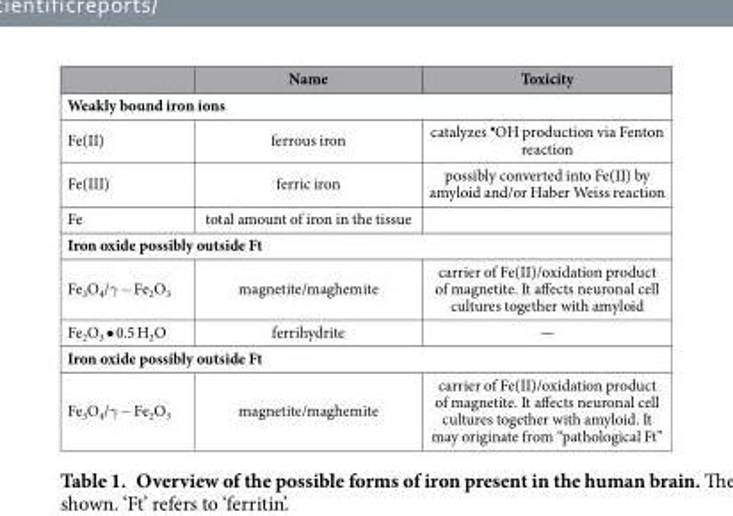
<table><thead><tr><td></td><td>Name</td><td>Toxicity</td></tr></thead><tbody><tr><td colspan="3">Weakly bound iron ions</td></tr><tr><td>Fe(II)</td><td>ferrous iron</td><td>catalyzes <sup>•</sup>OH production via Fenton reaction</td></tr><tr><td>Fe(III)</td><td>ferric iron</td><td>possibly converted into Fe(II) by amyloid and/or Haber Weiss reaction</td></tr><tr><td>Fe</td><td>total amount of iron in the tissue</td><td></td></tr><tr><td colspan="3">Iron oxide possibly outside Ft</td></tr><tr><td>Fe<sub>3</sub>O<sub>4</sub>/γ − Fe<sub>2</sub>O<sub>3</sub></td><td>magnetite/maghemite</td><td>carrier of Fe(II)/oxidation product of magnetite. It affects neuronal cell cultures together with amyloid</td></tr><tr><td>Fe<sub>2</sub>O<sub>3</sub> • 0.5 H<sub>2</sub>O</td><td>ferrihydrite</td><td>—</td></tr><tr><td colspan="3">Iron oxide possibly outside Ft</td></tr><tr><td>Fe<sub>3</sub>O<sub>4</sub>/γ − Fe<sub>2</sub>O<sub>3</sub></td><td>magnetite/maghemite</td><td>carrier of Fe(II)/oxidation product of magnetite. It affects neuronal cell cultures together with amyloid. It may originate from “pathological Ft”</td></tr></tbody></table>